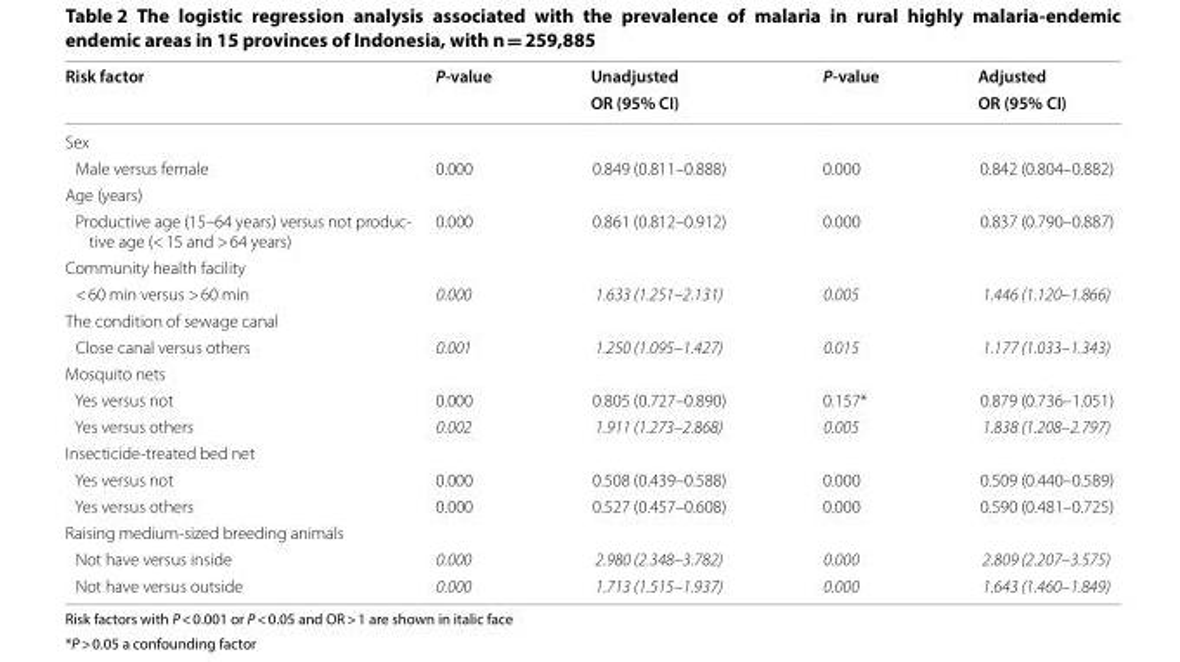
<table><thead><tr><td rowspan="2">Risk factor</td><td rowspan="2">P-value</td><td rowspan="2">Unadjusted OR (95% CI)</td><td rowspan="2">P-value</td><td rowspan="2">Adjusted OR (95% CI)</td></tr><tr></tr></thead><tbody><tr><td colspan="5">Sex</td></tr><tr><td>Male versus female</td><td>0.000</td><td>0.849 (0.811–0.888)</td><td>0.000</td><td>0.842 (0.804–0.882)</td></tr><tr><td colspan="5">Age (years)</td></tr><tr><td>Productive age (15–64 years) versus not produc- tive age (&lt; 15 and &gt; 64 years)</td><td>0.000</td><td>0.861 (0.812–0.912)</td><td>0.000</td><td>0.837 (0.790–0.887)</td></tr><tr><td colspan="5">Community health facility</td></tr><tr><td>&lt; 60 min versus &gt; 60 min</td><td>0.000</td><td>1.633 (1.251–2.131)</td><td>0.005</td><td>1.446 (1.120–1.866)</td></tr><tr><td colspan="5">The condition of sewage canal</td></tr><tr><td>Close canal versus others</td><td>0.001</td><td>1.250 (1.095–1.427)</td><td>0.015</td><td>1.177 (1.033–1.343)</td></tr><tr><td colspan="5">Mosquito nets</td></tr><tr><td>Yes versus not</td><td>0.000</td><td>0.805 (0.727–0.890)</td><td>0.157*</td><td>0.879 (0.736–1.051)</td></tr><tr><td>Yes versus others</td><td>0.002</td><td>1.911 (1.273–2.868)</td><td>0.005</td><td>1.838 (1.208–2.797)</td></tr><tr><td colspan="5">Insecticide-treated bed net</td></tr><tr><td>Yes versus not</td><td>0.000</td><td>0.508 (0.439–0.588)</td><td>0.000</td><td>0.509 (0.440–0.589)</td></tr><tr><td>Yes versus others</td><td>0.000</td><td>0.527 (0.457–0.608)</td><td>0.000</td><td>0.590 (0.481–0.725)</td></tr><tr><td colspan="5">Raising medium-sized breeding animals</td></tr><tr><td>Not have versus inside</td><td>0.000</td><td>2.980 (2.348–3.782)</td><td>0.000</td><td>2.809 (2.207–3.575)</td></tr><tr><td>Not have versus outside</td><td>0.000</td><td>1.713 (1.515–1.937)</td><td>0.000</td><td>1.643 (1.460–1.849)</td></tr></tbody></table>